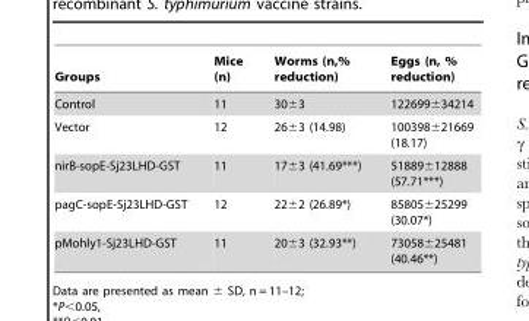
<table><thead><tr><td>Groups</td><td>Mice (n)</td><td>Worms (n,% reduction)</td><td>Eggs (n, % reduction)</td></tr></thead><tbody><tr><td>Control</td><td>11</td><td>30±3</td><td>122699±34214</td></tr><tr><td>Vector</td><td>12</td><td>26±3 (14.98)</td><td>100398±21669 (18.17)</td></tr><tr><td>nirB-sopE-Sj23LHD-GST</td><td>11</td><td>17±3 (41.69***)</td><td>51889±12888 (57.71***)</td></tr><tr><td>pagC-sopE-Sj23LHD-GST</td><td>12</td><td>22±2 (26.89*)</td><td>85805±25299 (30.07*)</td></tr><tr><td>pMohly1-Sj23LHD-GST</td><td>11</td><td>20±3 (32.93**)</td><td>73058±25481 (40.46**)</td></tr></tbody></table>